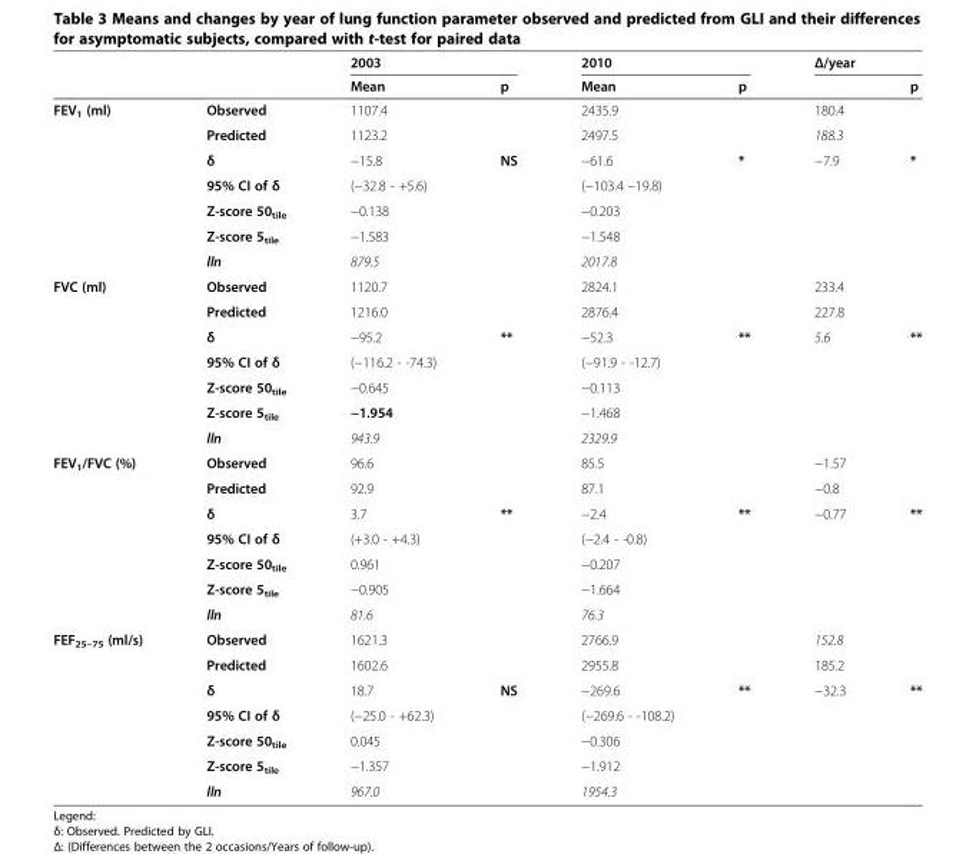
<table><thead><tr><td rowspan="2"></td><td rowspan="2"></td><td colspan="2">2003</td><td colspan="2">2010</td><td colspan="2">Δ/year</td></tr><tr><td>Mean</td><td>p</td><td>Mean</td><td>p</td><td></td><td>p</td></tr></thead><tbody><tr><td rowspan="7">FEV<sub>1</sub> (ml)</td><td>Observed</td><td>1107.4</td><td></td><td>2435.9</td><td></td><td>180.4</td><td></td></tr><tr><td>Predicted</td><td>1123.2</td><td></td><td>2497.5</td><td></td><td>188.3</td><td></td></tr><tr><td>δ</td><td>−15.8</td><td>NS</td><td>−61.6</td><td>*</td><td>−7.9</td><td>*</td></tr><tr><td>95% CI of δ</td><td>(−32.8 - +5.6)</td><td></td><td>(−103.4 –19.8)</td><td></td><td></td><td></td></tr><tr><td>Z-score 50<sub>tile</sub></td><td>−0.138</td><td></td><td>−0.203</td><td></td><td></td><td></td></tr><tr><td>Z-score 5<sub>tile</sub></td><td>−1.583</td><td></td><td>−1.548</td><td></td><td></td><td></td></tr><tr><td>lln</td><td>879.5</td><td></td><td>2017.8</td><td></td><td></td><td></td></tr><tr><td rowspan="7">FVC (ml)</td><td>Observed</td><td>1120.7</td><td></td><td>2824.1</td><td></td><td>233.4</td><td></td></tr><tr><td>Predicted</td><td>1216.0</td><td></td><td>2876.4</td><td></td><td>227.8</td><td></td></tr><tr><td>δ</td><td>−95.2</td><td>**</td><td>−52.3</td><td>**</td><td>5.6</td><td>**</td></tr><tr><td>95% CI of δ</td><td>(−116.2 - -74.3)</td><td></td><td>(−91.9 - -12.7)</td><td></td><td></td><td></td></tr><tr><td>Z-score 50<sub>tile</sub></td><td>−0.645</td><td></td><td>−0.113</td><td></td><td></td><td></td></tr><tr><td>Z-score 5<sub>tile</sub></td><td>−1.954</td><td></td><td>−1.468</td><td></td><td></td><td></td></tr><tr><td>lln</td><td>943.9</td><td></td><td>2329.9</td><td></td><td></td><td></td></tr><tr><td rowspan="7">FEV<sub>1</sub>/FVC (%)</td><td>Observed</td><td>96.6</td><td></td><td>85.5</td><td></td><td>−1.57</td><td></td></tr><tr><td>Predicted</td><td>92.9</td><td></td><td>87.1</td><td></td><td>−0.8</td><td></td></tr><tr><td>δ</td><td>3.7</td><td>**</td><td>−2.4</td><td>**</td><td>−0.77</td><td>**</td></tr><tr><td>95% CI of δ</td><td>(+3.0 - +4.3)</td><td></td><td>(−2.4 - -0.8)</td><td></td><td></td><td></td></tr><tr><td>Z-score 50<sub>tile</sub></td><td>0.961</td><td></td><td>−0.207</td><td></td><td></td><td></td></tr><tr><td>Z-score 5<sub>tile</sub></td><td>−0.905</td><td></td><td>−1.664</td><td></td><td></td><td></td></tr><tr><td>lln</td><td>81.6</td><td></td><td>76.3</td><td></td><td></td><td></td></tr><tr><td rowspan="7">FEF<sub>25–75</sub> (ml/s)</td><td>Observed</td><td>1621.3</td><td></td><td>2766.9</td><td></td><td>152.8</td><td></td></tr><tr><td>Predicted</td><td>1602.6</td><td></td><td>2955.8</td><td></td><td>185.2</td><td></td></tr><tr><td>δ</td><td>18.7</td><td>NS</td><td>−269.6</td><td>**</td><td>−32.3</td><td>**</td></tr><tr><td>95% CI of δ</td><td>(−25.0 - +62.3)</td><td></td><td>(−269.6 - -108.2)</td><td></td><td></td><td></td></tr><tr><td>Z-score 50<sub>tile</sub></td><td>0.045</td><td></td><td>−0.306</td><td></td><td></td><td></td></tr><tr><td>Z-score 5<sub>tile</sub></td><td>−1.357</td><td></td><td>−1.912</td><td></td><td></td><td></td></tr><tr><td>lln</td><td>967.0</td><td></td><td>1954.3</td><td></td><td></td><td></td></tr></tbody></table>